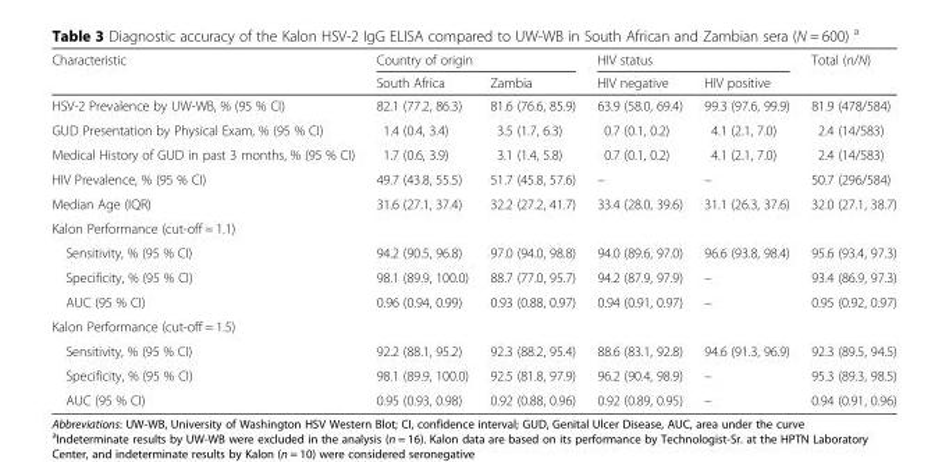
<table><thead><tr><td rowspan="2">Characteristic</td><td colspan="2">Country of origin</td><td colspan="2">HIV status</td><td rowspan="2">Total (n/N)</td></tr><tr><td>South Africa</td><td>Zambia</td><td>HIV negative</td><td>HIV positive</td></tr></thead><tbody><tr><td>HSV-2 Prevalence by UW-WB, % (95 % CI)</td><td>82.1 (77.2, 86.3)</td><td>81.6 (76.6, 85.9)</td><td>63.9 (58.0, 69.4)</td><td>99.3 (97.6, 99.9)</td><td>81.9 (478/584)</td></tr><tr><td>GUD Presentation by Physical Exam, % (95 % CI)</td><td>1.4 (0.4, 3.4)</td><td>3.5 (1.7, 6.3)</td><td>0.7 (0.1, 0.2)</td><td>4.1 (2.1, 7.0)</td><td>2.4 (14/583)</td></tr><tr><td>Medical History of GUD in past 3 months, % (95 % CI)</td><td>1.7 (0.6, 3.9)</td><td>3.1 (1.4, 5.8)</td><td>0.7 (0.1, 0.2)</td><td>4.1 (2.1, 7.0)</td><td>2.4 (14/583)</td></tr><tr><td>HIV Prevalence, % (95 % CI)</td><td>49.7 (43.8, 55.5)</td><td>51.7 (45.8, 57.6)</td><td>–</td><td>–</td><td>50.7 (296/584)</td></tr><tr><td>Median Age (IQR)</td><td>31.6 (27.1, 37.4)</td><td>32.2 (27.2, 41.7)</td><td>33.4 (28.0, 39.6)</td><td>31.1 (26.3, 37.6)</td><td>32.0 (27.1, 38.7)</td></tr><tr><td colspan="6">Kalon Performance (cut-off = 1.1)</td></tr><tr><td>Sensitivity, % (95 % CI)</td><td>94.2 (90.5, 96.8)</td><td>97.0 (94.0, 98.8)</td><td>94.0 (89.6, 97.0)</td><td>96.6 (93.8, 98.4)</td><td>95.6 (93.4, 97.3)</td></tr><tr><td>Specificity, % (95 % CI)</td><td>98.1 (89.9, 100.0)</td><td>88.7 (77.0, 95.7)</td><td>94.2 (87.9, 97.9)</td><td>–</td><td>93.4 (86.9, 97.3)</td></tr><tr><td>AUC (95 % CI)</td><td>0.96 (0.94, 0.99)</td><td>0.93 (0.88, 0.97)</td><td>0.94 (0.91, 0.97)</td><td>–</td><td>0.95 (0.92, 0.97)</td></tr><tr><td colspan="6">Kalon Performance (cut-off = 1.5)</td></tr><tr><td>Sensitivity, % (95 % CI)</td><td>92.2 (88.1, 95.2)</td><td>92.3 (88.2, 95.4)</td><td>88.6 (83.1, 92.8)</td><td>94.6 (91.3, 96.9)</td><td>92.3 (89.5, 94.5)</td></tr><tr><td>Specificity, % (95 % CI)</td><td>98.1 (89.9, 100.0)</td><td>92.5 (81.8, 97.9)</td><td>96.2 (90.4, 98.9)</td><td>–</td><td>95.3 (89.3, 98.5)</td></tr><tr><td>AUC (95 % CI)</td><td>0.95 (0.93, 0.98)</td><td>0.92 (0.88, 0.96)</td><td>0.92 (0.89, 0.95)</td><td>–</td><td>0.94 (0.91, 0.96)</td></tr></tbody></table>